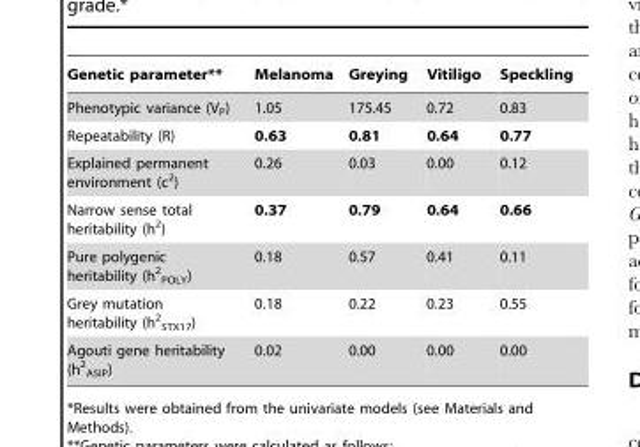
<table><thead><tr><td>Genetic parameter**</td><td>Melanoma</td><td>Greying</td><td>Vitiligo</td><td>Speckling</td></tr></thead><tbody><tr><td>Phenotypic variance (V<sub>P</sub>)</td><td>1.05</td><td>175.45</td><td>0.72</td><td>0.83</td></tr><tr><td>Repeatability (R)</td><td>0.63</td><td>0.81</td><td>0.64</td><td>0.77</td></tr><tr><td>Explained permanent environment (c<sup>2</sup>)</td><td>0.26</td><td>0.03</td><td>0.00</td><td>0.12</td></tr><tr><td>Narrow sense total heritability (h<sup>2</sup>)</td><td>0.37</td><td>0.79</td><td>0.64</td><td>0.66</td></tr><tr><td>Pure polygenic heritability (h<sup>2</sup> <sub>POLY</sub>)</td><td>0.18</td><td>0.57</td><td>0.41</td><td>0.11</td></tr><tr><td>Grey mutation heritability (h<sup>2</sup> <sub>STX17</sub>)</td><td>0.18</td><td>0.22</td><td>0.23</td><td>0.55</td></tr><tr><td>Agouti gene heritability (h<sup>2</sup> <sub>ASIP</sub>)</td><td>0.02</td><td>0.00</td><td>0.00</td><td>0.00</td></tr></tbody></table>